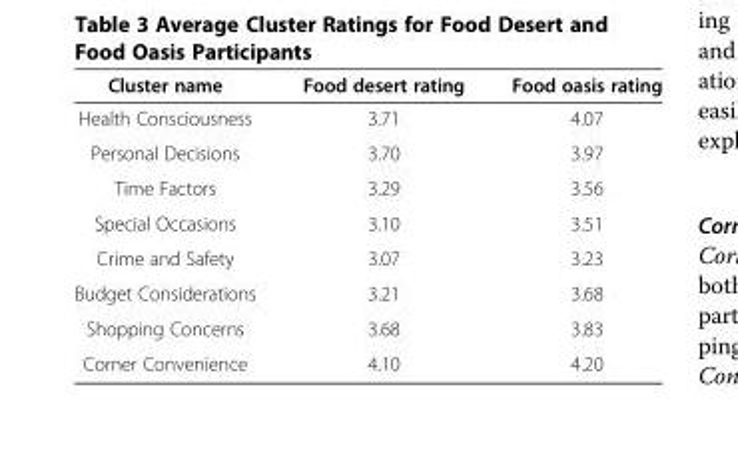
<table><thead><tr><td>Cluster name</td><td>Food desert rating</td><td>Food oasis rating</td></tr></thead><tbody><tr><td>Health Consciousness</td><td>3.71</td><td>4.07</td></tr><tr><td>Personal Decisions</td><td>3.70</td><td>3.97</td></tr><tr><td>Time Factors</td><td>3.29</td><td>3.56</td></tr><tr><td>Special Occasions</td><td>3.10</td><td>3.51</td></tr><tr><td>Crime and Safety</td><td>3.07</td><td>3.23</td></tr><tr><td>Budget Considerations</td><td>3.21</td><td>3.68</td></tr><tr><td>Shopping Concerns</td><td>3.68</td><td>3.83</td></tr><tr><td>Corner Convenience</td><td>4.10</td><td>4.20</td></tr></tbody></table>